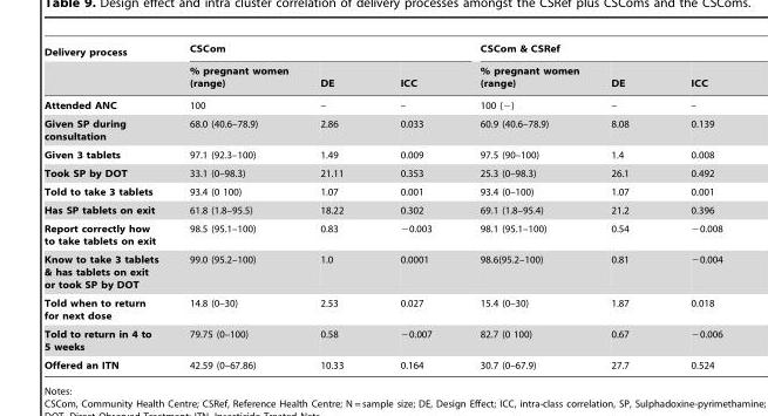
<table><thead><tr><td rowspan="2">Delivery process</td><td colspan="3">CSCom</td><td colspan="3">CSCom &amp; CSRef</td></tr><tr><td>% pregnant women (range)</td><td>DE</td><td>ICC</td><td>% pregnant women (range)</td><td>DE</td><td>ICC</td></tr></thead><tbody><tr><td>Attended ANC</td><td>100</td><td>–</td><td>–</td><td>100 (−)</td><td>–</td><td>–</td></tr><tr><td>Given SP during consultation</td><td>68.0 (40.6–78.9)</td><td>2.86</td><td>0.033</td><td>60.9 (40.6–78.9)</td><td>8.08</td><td>0.139</td></tr><tr><td>Given 3 tablets</td><td>97.1 (92.3–100)</td><td>1.49</td><td>0.009</td><td>97.5 (90–100)</td><td>1.4</td><td>0.008</td></tr><tr><td>Took SP by DOT</td><td>33.1 (0–98.3)</td><td>21.11</td><td>0.353</td><td>25.3 (0–98.3)</td><td>26.1</td><td>0.492</td></tr><tr><td>Told to take 3 tablets</td><td>93.4 (0 100)</td><td>1.07</td><td>0.001</td><td>93.4 (0–100)</td><td>1.07</td><td>0.001</td></tr><tr><td>Has SP tablets on exit</td><td>61.8 (1.8–95.5)</td><td>18.22</td><td>0.302</td><td>69.1 (1.8–95.4)</td><td>21.2</td><td>0.396</td></tr><tr><td>Report correctly how to take tablets on exit</td><td>98.5 (95.1–100)</td><td>0.83</td><td>−0.003</td><td>98.1 (95.1–100)</td><td>0.54</td><td>−0.008</td></tr><tr><td>Know to take 3 tablets &amp; has tablets on exit or took SP by DOT</td><td>99.0 (95.2–100)</td><td>1.0</td><td>0.0001</td><td>98.6(95.2–100)</td><td>0.81</td><td>−0.004</td></tr><tr><td>Told when to return for next dose</td><td>14.8 (0–30)</td><td>2.53</td><td>0.027</td><td>15.4 (0–30)</td><td>1.87</td><td>0.018</td></tr><tr><td>Told to return in 4 to 5 weeks</td><td>79.75 (0–100)</td><td>0.58</td><td>−0.007</td><td>82.7 (0 100)</td><td>0.67</td><td>−0.006</td></tr><tr><td>Offered an ITN</td><td>42.59 (0–67.86)</td><td>10.33</td><td>0.164</td><td>30.7 (0–67.9)</td><td>27.7</td><td>0.524</td></tr></tbody></table>